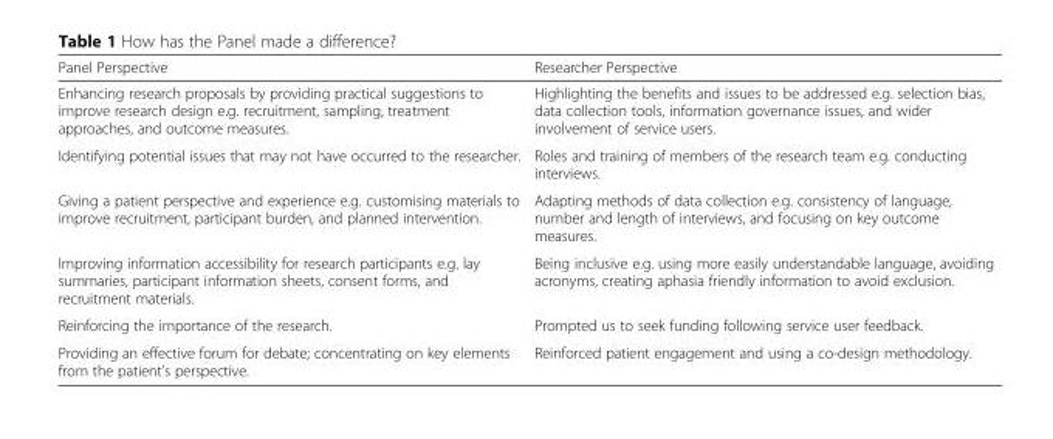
<table><thead><tr><td>Panel Perspective</td><td>Researcher Perspective</td></tr></thead><tbody><tr><td>Enhancing research proposals by providing practical suggestions to improve research design e.g. recruitment, sampling, treatment approaches, and outcome measures.</td><td>Highlighting the benefits and issues to be addressed e.g. selection bias, data collection tools, information governance issues, and wider involvement of service users.</td></tr><tr><td>Identifying potential issues that may not have occurred to the researcher.</td><td>Roles and training of members of the research team e.g. conducting interviews.</td></tr><tr><td>Giving a patient perspective and experience e.g. customising materials to improve recruitment, participant burden, and planned intervention.</td><td>Adapting methods of data collection e.g. consistency of language, number and length of interviews, and focusing on key outcome measures.</td></tr><tr><td>Improving information accessibility for research participants e.g. lay summaries, participant information sheets, consent forms, and recruitment materials.</td><td>Being inclusive e.g. using more easily understandable language, avoiding acronyms, creating aphasia friendly information to avoid exclusion.</td></tr><tr><td>Reinforcing the importance of the research.</td><td>Prompted us to seek funding following service user feedback.</td></tr><tr><td>Providing an effective forum for debate; concentrating on key elements from the patient’s perspective.</td><td>Reinforced patient engagement and using a co-design methodology.</td></tr></tbody></table>